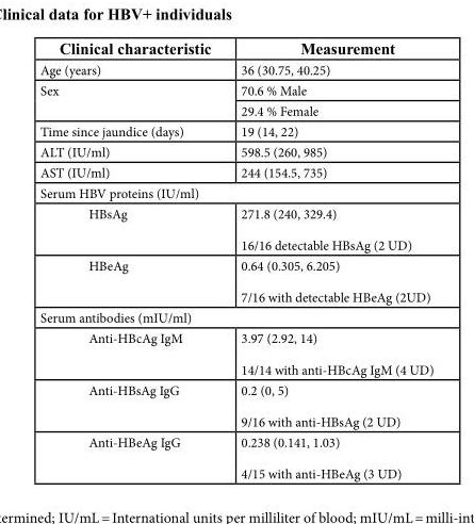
<table><thead><tr><td>Clinical characteristic</td><td>Measurement</td></tr></thead><tbody><tr><td>Age (years)</td><td>36 (30.75, 40.25)</td></tr><tr><td rowspan="2">Sex</td><td>70.6 % Male</td></tr><tr><td>29.4 % Female</td></tr><tr><td>Time since jaundice (days)</td><td>19 (14, 22)</td></tr><tr><td>ALT (IU/ml)</td><td>598.5 (260, 985)</td></tr><tr><td>AST (IU/ml)</td><td>244 (154.5, 735)</td></tr><tr><td colspan="2">Serum HBV proteins (IU/ml)</td></tr><tr><td rowspan="2">HBsAg</td><td>271.8 (240, 329.4)</td></tr><tr><td>16/16 detectable HBsAg (2 UD)</td></tr><tr><td rowspan="2">HBeAg</td><td>0.64 (0.305, 6.205)</td></tr><tr><td>7/16 with detectable HBeAg (2UD)</td></tr><tr><td colspan="2">Serum antibodies (mIU/ml)</td></tr><tr><td rowspan="2">Anti-HBcAg IgM</td><td>3.97 (2.92, 14)</td></tr><tr><td>14/14 with anti-HBcAg IgM (4 UD)</td></tr><tr><td rowspan="2">Anti-HBsAg IgG</td><td>0.2 (0, 5)</td></tr><tr><td>9/16 with anti-HBsAg (2 UD)</td></tr><tr><td rowspan="2">Anti-HBeAg IgG</td><td>0.238 (0.141, 1.03)</td></tr><tr><td>4/15 with anti-HBeAg (3 UD)</td></tr></tbody></table>